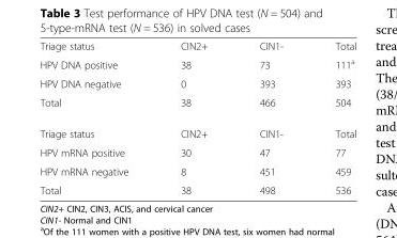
<table><tbody><tr><td>Triage status</td><td>CIN2+</td><td>CIN1-</td><td>Total</td></tr><tr><td>HPV DNA positive</td><td>38</td><td>73</td><td>111<sup>a</sup></td></tr><tr><td>HPV DNA negative</td><td>0</td><td>393</td><td>393</td></tr><tr><td>Total</td><td>38</td><td>466</td><td>504</td></tr><tr><td>Triage status</td><td>CIN2+</td><td>CIN1-</td><td>Total</td></tr><tr><td>HPV mRNA positive</td><td>30</td><td>47</td><td>77</td></tr><tr><td>HPV mRNA negative</td><td>8</td><td>451</td><td>459</td></tr><tr><td>Total</td><td>38</td><td>498</td><td>536</td></tr></tbody></table>